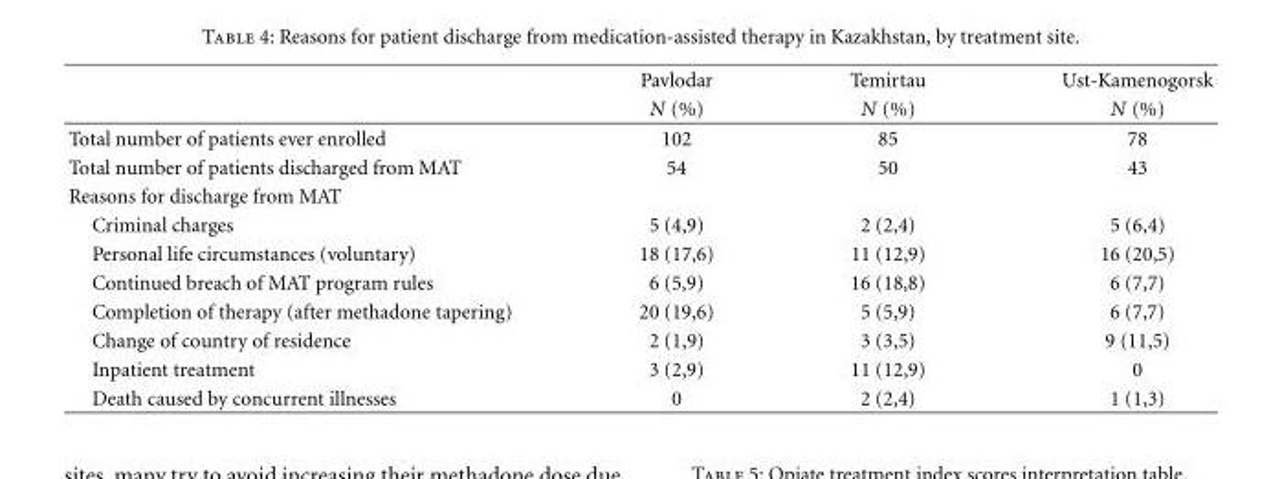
<table><thead><tr><td rowspan="2"></td><td rowspan="2">Pavlodar N (%)</td><td rowspan="2">Temirtau N (%)</td><td rowspan="2">Ust-Kamenogorsk N (%)</td></tr><tr></tr></thead><tbody><tr><td>Total number of patients ever enrolled</td><td>102</td><td>85</td><td>78</td></tr><tr><td>Total number of patients discharged from MAT</td><td>54</td><td>50</td><td>43</td></tr><tr><td colspan="4">Reasons for discharge from MAT</td></tr><tr><td>Criminal charges</td><td>5 (4,9)</td><td>2 (2,4)</td><td>5 (6,4)</td></tr><tr><td>Personal life circumstances (voluntary)</td><td>18 (17,6)</td><td>11 (12,9)</td><td>16 (20,5)</td></tr><tr><td>Continued breach of MAT program rules</td><td>6 (5,9)</td><td>16 (18,8)</td><td>6 (7,7)</td></tr><tr><td>Completion of therapy (after methadone tapering)</td><td>20 (19,6)</td><td>5 (5,9)</td><td>6 (7,7)</td></tr><tr><td>Change of country of residence</td><td>2 (1,9)</td><td>3 (3,5)</td><td>9 (11,5)</td></tr><tr><td>Inpatient treatment</td><td>3 (2,9)</td><td>11 (12,9)</td><td>0</td></tr><tr><td>Death caused by concurrent illnesses</td><td>0</td><td>2 (2,4)</td><td>1 (1,3)</td></tr></tbody></table>